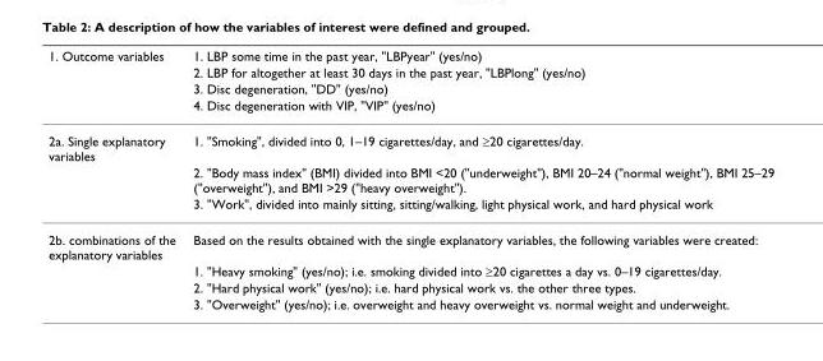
<table><thead><tr><td rowspan="4">1. Outcome variables</td><td rowspan="4">1. LBP some time in the past year, &quot;LBPyear&quot; (yes/no) 2. LBP for altogether at least 30 days in the past year, &quot;LBPlong&quot; (yes/no) 3. Disc degeneration, &quot;DD&quot; (yes/no) 4. Disc degeneration with VIP, &quot;VIP&quot; (yes/no)</td></tr><tr></tr><tr></tr><tr></tr></thead><tbody><tr><td rowspan="3">2a. Single explanatory variables</td><td>1. &quot;Smoking&quot;, divided into 0, 1–19 cigarettes/day, and ≥20 cigarettes/day.</td></tr><tr><td>2. &quot;Body mass index&quot; (BMI) divided into BMI &lt;20 (&quot;underweight&quot;), BMI 20–24 (&quot;normal weight&quot;), BMI 25–29 (&quot;overweight&quot;), and BMI &gt;29 (&quot;heavy overweight&quot;).</td></tr><tr><td>3. &quot;Work&quot;, divided into mainly sitting, sitting/walking, light physical work, and hard physical work</td></tr><tr><td rowspan="4">2b. combinations of the explanatory variables</td><td>Based on the results obtained with the single explanatory variables, the following variables were created:</td></tr><tr><td>1. &quot;Heavy smoking&quot; (yes/no); i.e. smoking divided into ≥20 cigarettes a day vs. 0–19 cigarettes/day.</td></tr><tr><td>2. &quot;Hard physical work&quot; (yes/no); i.e. hard physical work vs. the other three types.</td></tr><tr><td>3. &quot;Overweight&quot; (yes/no); i.e. overweight and heavy overweight vs. normal weight and underweight.</td></tr></tbody></table>